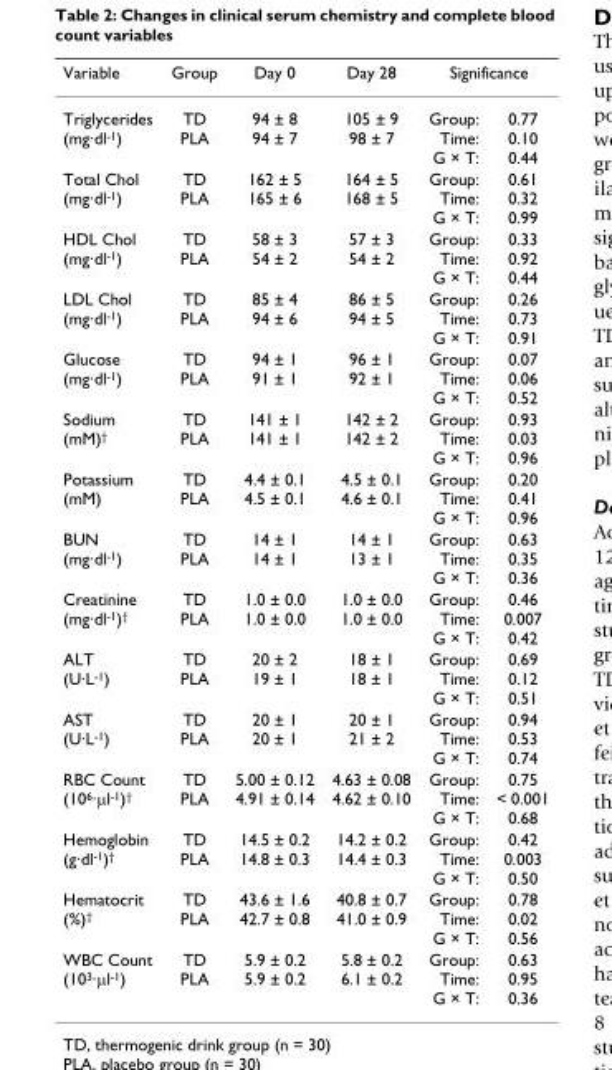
<table><thead><tr><td rowspan="2">Variable Triglycerides (mg·dl<sup>-1</sup>)</td><td rowspan="2">Group TD PLA</td><td rowspan="2">Day 0 94 ± 8 94 ± 7</td><td rowspan="2">Day 28 105 ± 9 98 ± 7</td><td colspan="2">Significance</td></tr><tr><td>Group: Time: G × T:</td><td>0.77 0.10 0.44</td></tr></thead><tbody><tr><td>Total Chol (mg·dl<sup>-1</sup>)</td><td>TD PLA</td><td>162 ± 5 165 ± 6</td><td>164 ± 5 168 ± 5</td><td>Group: Time: G × T:</td><td>0.61 0.32 0.99</td></tr><tr><td>HDL Chol (mg·dl<sup>-1</sup>)</td><td>TD PLA</td><td>58 ± 3 54 ± 2</td><td>57 ± 3 54 ± 2</td><td>Group: Time: G × T:</td><td>0.33 0.92 0.44</td></tr><tr><td>LDL Chol (mg·dl<sup>-1</sup>)</td><td>TD PLA</td><td>85 ± 4 94 ± 6</td><td>86 ± 5 94 ± 5</td><td>Group: Time: G × T:</td><td>0.26 0.73 0.91</td></tr><tr><td>Glucose (mg·dl<sup>-1</sup>)</td><td>TD PLA</td><td>94 ± 1 91 ± 1</td><td>96 ± 1 92 ± 1</td><td>Group: Time: G × T:</td><td>0.07 0.06 0.52</td></tr><tr><td>Sodium (mM)<sup>†</sup></td><td>TD PLA</td><td>141 ± 1 141 ± 1</td><td>142 ± 2 142 ± 2</td><td>Group: Time: G × T:</td><td>0.93 0.03 0.96</td></tr><tr><td>Potassium (mM)</td><td>TD PLA</td><td>4.4 ± 0.1 4.5 ± 0.1</td><td>4.5 ± 0.1 4.6 ± 0.1</td><td>Group: Time: G × T:</td><td>0.20 0.41 0.96</td></tr><tr><td>BUN (mg·dl<sup>-1</sup>)</td><td>TD PLA</td><td>14 ± 1 14 ± 1</td><td>14 ± 1 13 ± 1</td><td>Group: Time: G × T:</td><td>0.63 0.35 0.36</td></tr><tr><td>Creatinine (mg·dl<sup>-1</sup>)<sup>†</sup></td><td>TD PLA</td><td>1.0 ± 0.0 1.0 ± 0.0</td><td>1.0 ± 0.0 1.0 ± 0.0</td><td>Group: Time: G × T:</td><td>0.46 0.007 0.42</td></tr><tr><td>ALT (U·L<sup>-1</sup>)</td><td>TD PLA</td><td>20 ± 2 19 ± 1</td><td>18 ± 1 18 ± 1</td><td>Group: Time: G × T:</td><td>0.69 0.12 0.51</td></tr><tr><td>AST (U·L<sup>-1</sup>)</td><td>TD PLA</td><td>20 ± 1 20 ± 1</td><td>20 ± 1 21 ± 2</td><td>Group: Time: G × T:</td><td>0.94 0.53 0.74</td></tr><tr><td>RBC Count (10<sup>6</sup>·μl<sup>-1</sup>)<sup>†</sup></td><td>TD PLA</td><td>5.00 ± 0.12 4.91 ± 0.14</td><td>4.63 ± 0.08 4.62 ± 0.10</td><td>Group: Time: G × T:</td><td>0.75 &lt; 0.001 0.68</td></tr><tr><td>Hemoglobin (g·dl<sup>-1</sup>)<sup>†</sup></td><td>TD PLA</td><td>14.5 ± 0.2 14.8 ± 0.3</td><td>14.2 ± 0.2 14.4 ± 0.3</td><td>Group: Time: G × T:</td><td>0.42 0.003 0.50</td></tr><tr><td>Hematocrit (%)<sup>†</sup></td><td>TD PLA</td><td>43.6 ± 1.6 42.7 ± 0.8</td><td>40.8 ± 0.7 41.0 ± 0.9</td><td>Group: Time: G × T:</td><td>0.78 0.02 0.56</td></tr><tr><td>WBC Count (10<sup>3</sup>·μl<sup>-1</sup>)</td><td>TD PLA</td><td>5.9 ± 0.2 5.9 ± 0.2</td><td>5.8 ± 0.2 6.1 ± 0.2</td><td>Group: Time: G × T:</td><td>0.63 0.95 0.36</td></tr></tbody></table>